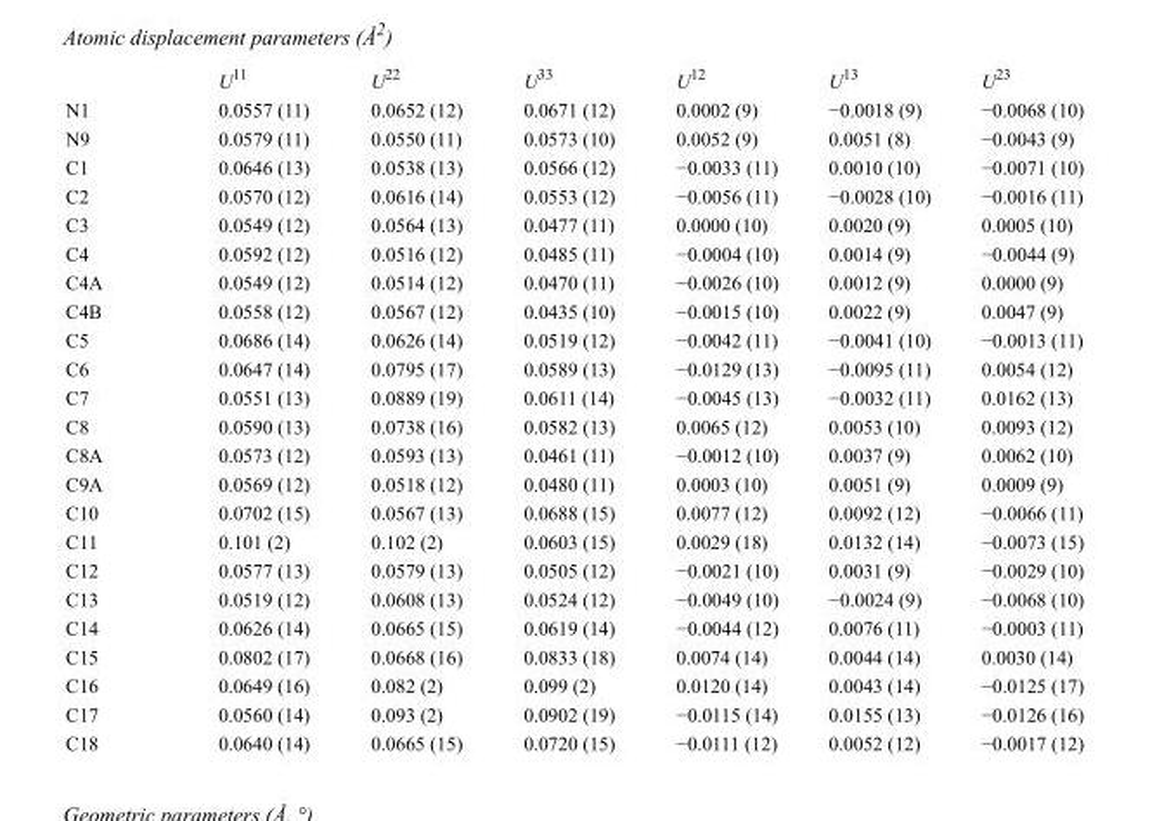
<table><thead><tr><td></td><td>U<sup>11</sup></td><td>U<sup>22</sup></td><td>U<sup>33</sup></td><td>U<sup>12</sup></td><td>U<sup>13</sup></td><td>U<sup>23</sup></td></tr></thead><tbody><tr><td>N1</td><td>0.0557 (11)</td><td>0.0652 (12)</td><td>0.0671 (12)</td><td>0.0002 (9)</td><td>−0.0018 (9)</td><td>−0.0068 (10)</td></tr><tr><td>N9</td><td>0.0579 (11)</td><td>0.0550 (11)</td><td>0.0573 (10)</td><td>0.0052 (9)</td><td>0.0051 (8)</td><td>−0.0043 (9)</td></tr><tr><td>C1</td><td>0.0646 (13)</td><td>0.0538 (13)</td><td>0.0566 (12)</td><td>−0.0033 (11)</td><td>0.0010 (10)</td><td>−0.0071 (10)</td></tr><tr><td>C2</td><td>0.0570 (12)</td><td>0.0616 (14)</td><td>0.0553 (12)</td><td>−0.0056 (11)</td><td>−0.0028 (10)</td><td>−0.0016 (11)</td></tr><tr><td>C3</td><td>0.0549 (12)</td><td>0.0564 (13)</td><td>0.0477 (11)</td><td>0.0000 (10)</td><td>0.0020 (9)</td><td>0.0005 (10)</td></tr><tr><td>C4</td><td>0.0592 (12)</td><td>0.0516 (12)</td><td>0.0485 (11)</td><td>−0.0004 (10)</td><td>0.0014 (9)</td><td>−0.0044 (9)</td></tr><tr><td>C4A</td><td>0.0549 (12)</td><td>0.0514 (12)</td><td>0.0470 (11)</td><td>−0.0026 (10)</td><td>0.0012 (9)</td><td>0.0000 (9)</td></tr><tr><td>C4B</td><td>0.0558 (12)</td><td>0.0567 (12)</td><td>0.0435 (10)</td><td>−0.0015 (10)</td><td>0.0022 (9)</td><td>0.0047 (9)</td></tr><tr><td>C5</td><td>0.0686 (14)</td><td>0.0626 (14)</td><td>0.0519 (12)</td><td>−0.0042 (11)</td><td>−0.0041 (10)</td><td>−0.0013 (11)</td></tr><tr><td>C6</td><td>0.0647 (14)</td><td>0.0795 (17)</td><td>0.0589 (13)</td><td>−0.0129 (13)</td><td>−0.0095 (11)</td><td>0.0054 (12)</td></tr><tr><td>C7</td><td>0.0551 (13)</td><td>0.0889 (19)</td><td>0.0611 (14)</td><td>−0.0045 (13)</td><td>−0.0032 (11)</td><td>0.0162 (13)</td></tr><tr><td>C8</td><td>0.0590 (13)</td><td>0.0738 (16)</td><td>0.0582 (13)</td><td>0.0065 (12)</td><td>0.0053 (10)</td><td>0.0093 (12)</td></tr><tr><td>C8A</td><td>0.0573 (12)</td><td>0.0593 (13)</td><td>0.0461 (11)</td><td>−0.0012 (10)</td><td>0.0037 (9)</td><td>0.0062 (10)</td></tr><tr><td>C9A</td><td>0.0569 (12)</td><td>0.0518 (12)</td><td>0.0480 (11)</td><td>0.0003 (10)</td><td>0.0051 (9)</td><td>0.0009 (9)</td></tr><tr><td>C10</td><td>0.0702 (15)</td><td>0.0567 (13)</td><td>0.0688 (15)</td><td>0.0077 (12)</td><td>0.0092 (12)</td><td>−0.0066 (11)</td></tr><tr><td>C11</td><td>0.101 (2)</td><td>0.102 (2)</td><td>0.0603 (15)</td><td>0.0029 (18)</td><td>0.0132 (14)</td><td>−0.0073 (15)</td></tr><tr><td>C12</td><td>0.0577 (13)</td><td>0.0579 (13)</td><td>0.0505 (12)</td><td>−0.0021 (10)</td><td>0.0031 (9)</td><td>−0.0029 (10)</td></tr><tr><td>C13</td><td>0.0519 (12)</td><td>0.0608 (13)</td><td>0.0524 (12)</td><td>−0.0049 (10)</td><td>−0.0024 (9)</td><td>−0.0068 (10)</td></tr><tr><td>C14</td><td>0.0626 (14)</td><td>0.0665 (15)</td><td>0.0619 (14)</td><td>−0.0044 (12)</td><td>0.0076 (11)</td><td>−0.0003 (11)</td></tr><tr><td>C15</td><td>0.0802 (17)</td><td>0.0668 (16)</td><td>0.0833 (18)</td><td>0.0074 (14)</td><td>0.0044 (14)</td><td>0.0030 (14)</td></tr><tr><td>C16</td><td>0.0649 (16)</td><td>0.082 (2)</td><td>0.099 (2)</td><td>0.0120 (14)</td><td>0.0043 (14)</td><td>−0.0125 (17)</td></tr><tr><td>C17</td><td>0.0560 (14)</td><td>0.093 (2)</td><td>0.0902 (19)</td><td>−0.0115 (14)</td><td>0.0155 (13)</td><td>−0.0126 (16)</td></tr><tr><td>C18</td><td>0.0640 (14)</td><td>0.0665 (15)</td><td>0.0720 (15)</td><td>−0.0111 (12)</td><td>0.0052 (12)</td><td>−0.0017 (12)</td></tr></tbody></table>